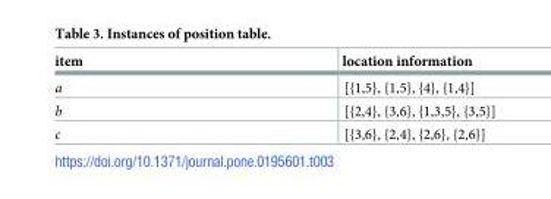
<table><thead><tr><td>item</td><td>location information</td></tr></thead><tbody><tr><td>a</td><td>[{1,5}, {1,5}, {4}, {1,4}]</td></tr><tr><td>b</td><td>[{2,4}, {3,6}, {1,3,5}, {3,5}]</td></tr><tr><td>c</td><td>[{3,6}, {2,4}, {2,6}, {2,6}]</td></tr></tbody></table>